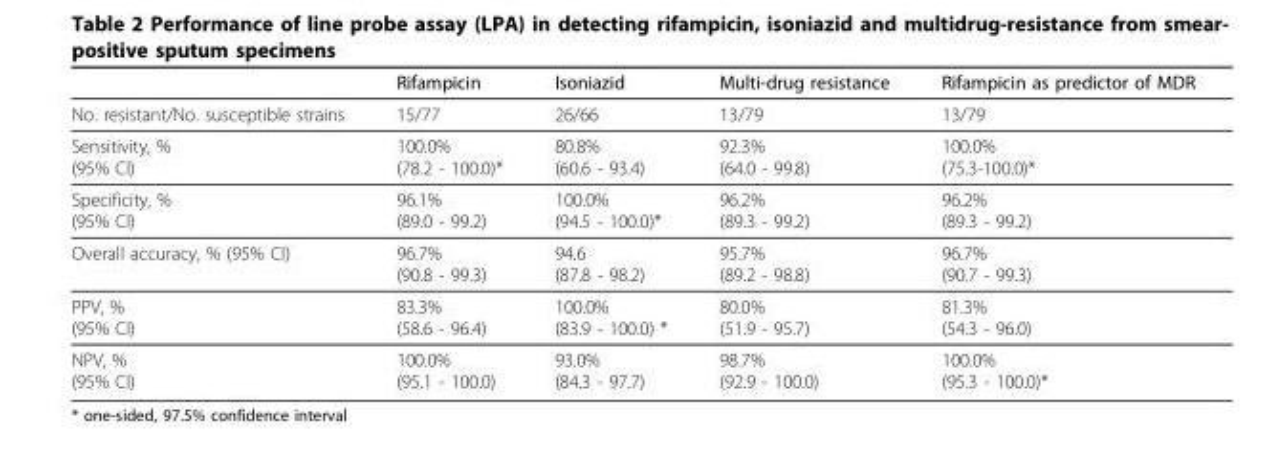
<table><thead><tr><td></td><td>Rifampicin</td><td>Isoniazid</td><td>Multi-drug resistance</td><td>Rifampicin as predictor of MDR</td></tr></thead><tbody><tr><td>No. resistant/No. susceptible strains</td><td>15/77</td><td>26/66</td><td>13/79</td><td>13/79</td></tr><tr><td>Sensitivity, % (95% CI)</td><td>100.0% (78.2 - 100.0)*</td><td>80.8% (60.6 - 93.4)</td><td>92.3% (64.0 - 99.8)</td><td>100.0% (75.3-100.0)*</td></tr><tr><td>Specificity, % (95% CI)</td><td>96.1% (89.0 - 99.2)</td><td>100.0% (94.5 - 100.0)*</td><td>96.2% (89.3 - 99.2)</td><td>96.2% (89.3 - 99.2)</td></tr><tr><td>Overall accuracy, % (95% CI)</td><td>96.7% (90.8 - 99.3)</td><td>94.6 (87.8 - 98.2)</td><td>95.7% (89.2 - 98.8)</td><td>96.7% (90.7 - 99.3)</td></tr><tr><td>PPV, % (95% CI)</td><td>83.3% (58.6 - 96.4)</td><td>100.0% (83.9 - 100.0) *</td><td>80.0% (51.9 - 95.7)</td><td>81.3% (54.3 - 96.0)</td></tr><tr><td>NPV, % (95% CI)</td><td>100.0% (95.1 - 100.0)</td><td>93.0% (84.3 - 97.7)</td><td>98.7% (92.9 - 100.0)</td><td>100.0% (95.3 - 100.0)*</td></tr></tbody></table>